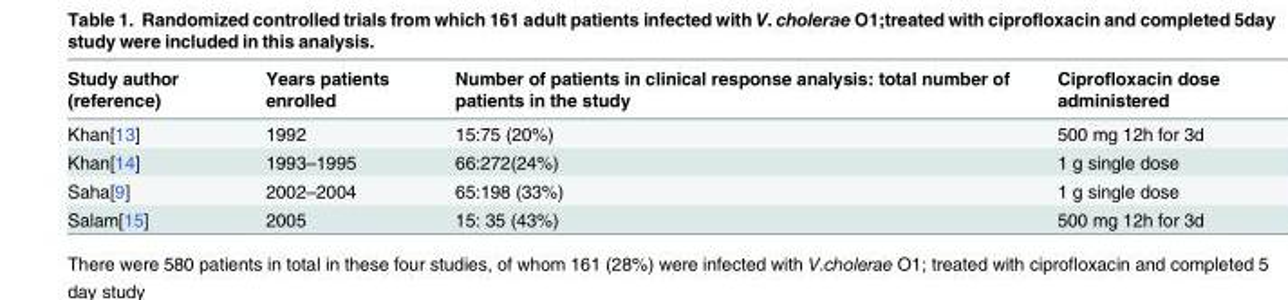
<table><thead><tr><td>Study author (reference)</td><td>Years patients enrolled</td><td>Number of patients in clinical response analysis: total number of patients in the study</td><td>Ciprofloxacin dose administered</td></tr></thead><tbody><tr><td>Khan[13]</td><td>1992</td><td>15:75 (20%)</td><td>500 mg 12h for 3d</td></tr><tr><td>Khan[14]</td><td>1993–1995</td><td>66:272(24%)</td><td>1 g single dose</td></tr><tr><td>Saha[9]</td><td>2002–2004</td><td>65:198 (33%)</td><td>1 g single dose</td></tr><tr><td>Salam[15]</td><td>2005</td><td>15: 35 (43%)</td><td>500 mg 12h for 3d</td></tr></tbody></table>